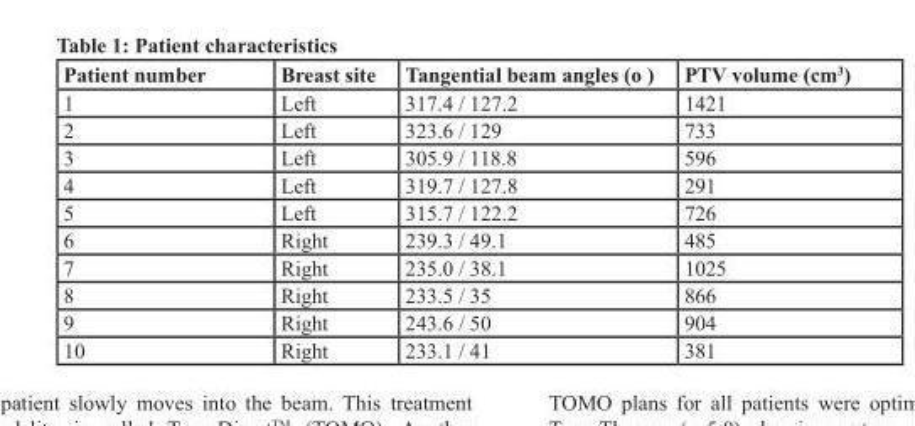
<table><thead><tr><td>Patient number</td><td>Breast site</td><td>Tangential beam angles (o )</td><td>PTV volume (cm<sup>3</sup>)</td></tr></thead><tbody><tr><td>1</td><td>Left</td><td>317.4 / 127.2</td><td>1421</td></tr><tr><td>2</td><td>Left</td><td>323.6 / 129</td><td>733</td></tr><tr><td>3</td><td>Left</td><td>305.9 / 118.8</td><td>596</td></tr><tr><td>4</td><td>Left</td><td>319.7 / 127.8</td><td>291</td></tr><tr><td>5</td><td>Left</td><td>315.7 / 122.2</td><td>726</td></tr><tr><td>6</td><td>Right</td><td>239.3 / 49.1</td><td>485</td></tr><tr><td>7</td><td>Right</td><td>235.0 / 38.1</td><td>1025</td></tr><tr><td>8</td><td>Right</td><td>233.5 / 35</td><td>866</td></tr><tr><td>9</td><td>Right</td><td>243.6 / 50</td><td>904</td></tr><tr><td>10</td><td>Right</td><td>233.1 / 41</td><td>381</td></tr></tbody></table>